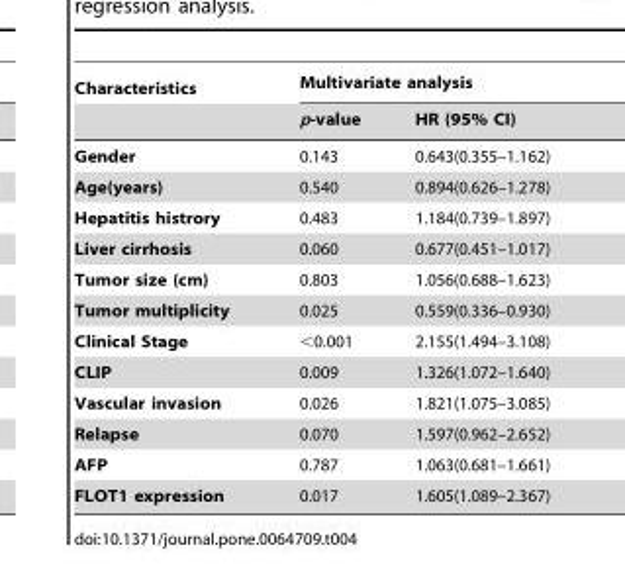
<table><thead><tr><td rowspan="2">Characteristics</td><td colspan="2">Multivariate analysis</td></tr><tr><td>p-value</td><td>HR (95% CI)</td></tr></thead><tbody><tr><td>Gender</td><td>0.143</td><td>0.643(0.355–1.162)</td></tr><tr><td>Age(years)</td><td>0.540</td><td>0.894(0.626–1.278)</td></tr><tr><td>Hepatitis histrory</td><td>0.483</td><td>1.184(0.739–1.897)</td></tr><tr><td>Liver cirrhosis</td><td>0.060</td><td>0.677(0.451–1.017)</td></tr><tr><td>Tumor size (cm)</td><td>0.803</td><td>1.056(0.688–1.623)</td></tr><tr><td>Tumor multiplicity</td><td>0.025</td><td>0.559(0.336–0.930)</td></tr><tr><td>Clinical Stage</td><td>&lt;0.001</td><td>2.155(1.494–3.108)</td></tr><tr><td>CLIP</td><td>0.009</td><td>1.326(1.072–1.640)</td></tr><tr><td>Vascular invasion</td><td>0.026</td><td>1.821(1.075–3.085)</td></tr><tr><td>Relapse</td><td>0.070</td><td>1.597(0.962–2.652)</td></tr><tr><td>AFP</td><td>0.787</td><td>1.063(0.681–1.661)</td></tr><tr><td>FLOT1 expression</td><td>0.017</td><td>1.605(1.089–2.367)</td></tr></tbody></table>